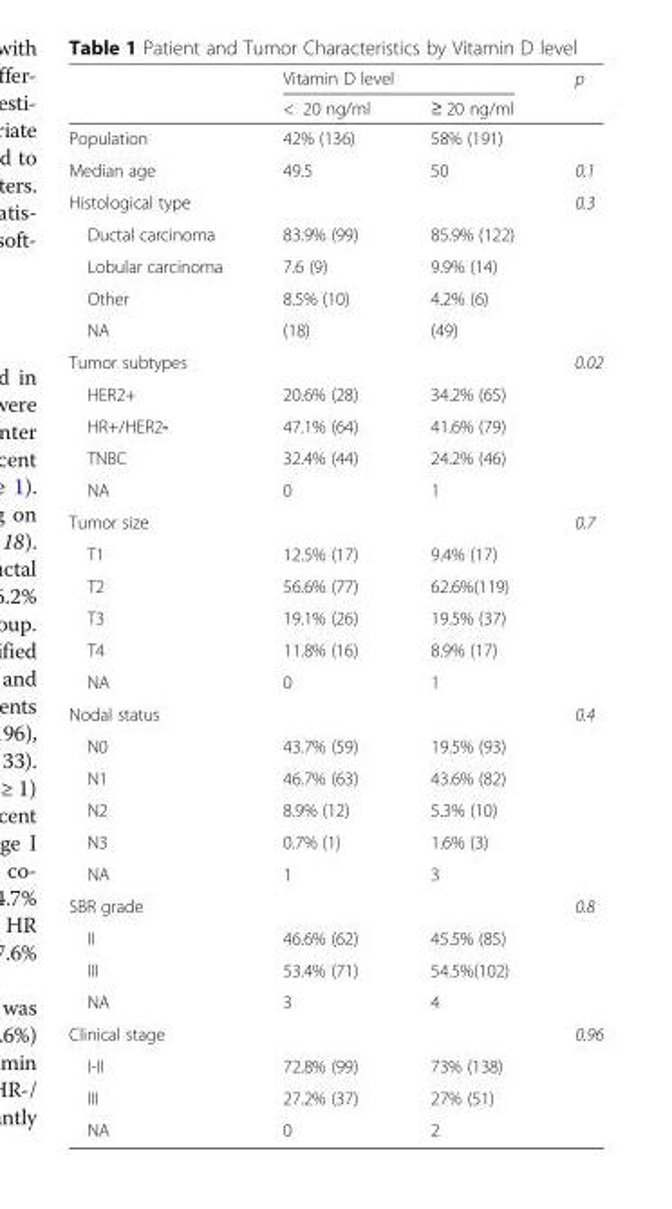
<table><thead><tr><td rowspan="2"></td><td colspan="2">Vitamin D level</td><td rowspan="2">p</td></tr><tr><td>&lt; 20 ng/ml</td><td>≥ 20 ng/ml</td></tr></thead><tbody><tr><td>Population</td><td>42% (136)</td><td>58% (191)</td><td></td></tr><tr><td>Median age</td><td>49.5</td><td>50</td><td>0.1</td></tr><tr><td>Histological type</td><td></td><td></td><td>0.3</td></tr><tr><td>Ductal carcinoma</td><td>83.9% (99)</td><td>85.9% (122)</td><td></td></tr><tr><td>Lobular carcinoma</td><td>7.6 (9)</td><td>9.9% (14)</td><td></td></tr><tr><td>Other</td><td>8.5% (10)</td><td>4.2% (6)</td><td></td></tr><tr><td>NA</td><td>(18)</td><td>(49)</td><td></td></tr><tr><td>Tumor subtypes</td><td></td><td></td><td>0.02</td></tr><tr><td>HER2+</td><td>20.6% (28)</td><td>34.2% (65)</td><td></td></tr><tr><td>HR+/HER2-</td><td>47.1% (64)</td><td>41.6% (79)</td><td></td></tr><tr><td>TNBC</td><td>32.4% (44)</td><td>24.2% (46)</td><td></td></tr><tr><td>NA</td><td>0</td><td>1</td><td></td></tr><tr><td>Tumor size</td><td></td><td></td><td>0.7</td></tr><tr><td>T1</td><td>12.5% (17)</td><td>9.4% (17)</td><td></td></tr><tr><td>T2</td><td>56.6% (77)</td><td>62.6%(119)</td><td></td></tr><tr><td>T3</td><td>19.1% (26)</td><td>19.5% (37)</td><td></td></tr><tr><td>T4</td><td>11.8% (16)</td><td>8.9% (17)</td><td></td></tr><tr><td>NA</td><td>0</td><td>1</td><td></td></tr><tr><td>Nodal status</td><td></td><td></td><td>0.4</td></tr><tr><td>N0</td><td>43.7% (59)</td><td>19.5% (93)</td><td></td></tr><tr><td>N1</td><td>46.7% (63)</td><td>43.6% (82)</td><td></td></tr><tr><td>N2</td><td>8.9% (12)</td><td>5.3% (10)</td><td></td></tr><tr><td>N3</td><td>0.7% (1)</td><td>1.6% (3)</td><td></td></tr><tr><td>NA</td><td>1</td><td>3</td><td></td></tr><tr><td>SBR grade</td><td></td><td></td><td>0.8</td></tr><tr><td>II</td><td>46.6% (62)</td><td>45.5% (85)</td><td></td></tr><tr><td>III</td><td>53.4% (71)</td><td>54.5%(102)</td><td></td></tr><tr><td>NA</td><td>3</td><td>4</td><td></td></tr><tr><td>Clinical stage</td><td></td><td></td><td>0.96</td></tr><tr><td>I-II</td><td>72.8% (99)</td><td>73% (138)</td><td></td></tr><tr><td>III</td><td>27.2% (37)</td><td>27% (51)</td><td></td></tr><tr><td>NA</td><td>0</td><td>2</td><td></td></tr></tbody></table>